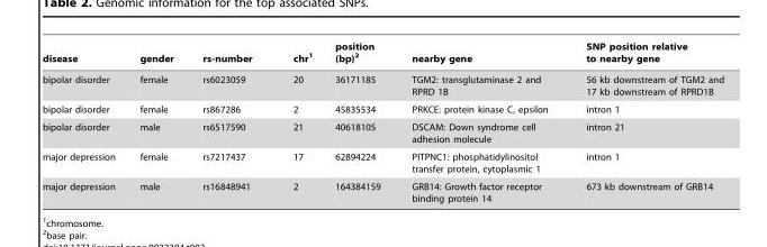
<table><thead><tr><td>disease</td><td>gender</td><td>rs-number</td><td>chr<sup>1</sup></td><td>position (bp)<sup>2</sup></td><td>nearby gene</td><td>SNP position relative to nearby gene</td></tr></thead><tbody><tr><td>bipolar disorder</td><td>female</td><td>rs6023059</td><td>20</td><td>36171185</td><td>TGM2: transglutaminase 2 and RPRD 1B</td><td>56 kb downstream of TGM2 and 17 kb downstream of RPRD1B</td></tr><tr><td>bipolar disorder</td><td>female</td><td>rs867286</td><td>2</td><td>45835534</td><td>PRKCE: protein kinase C, epsilon</td><td>intron 1</td></tr><tr><td>bipolar disorder</td><td>male</td><td>rs6517590</td><td>21</td><td>40618105</td><td>DSCAM: Down syndrome cell adhesion molecule</td><td>intron 21</td></tr><tr><td>major depression</td><td>female</td><td>rs7217437</td><td>17</td><td>62894224</td><td>PITPNC1: phosphatidylinositol transfer protein, cytoplasmic 1</td><td>intron 1</td></tr><tr><td>major depression</td><td>male</td><td>rs16848941</td><td>2</td><td>164384159</td><td>GRB14: Growth factor receptor binding protein 14</td><td>673 kb downstream of GRB14</td></tr></tbody></table>